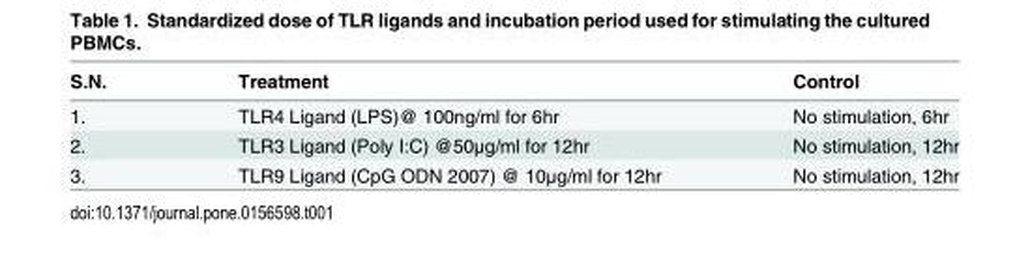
<table><thead><tr><td>S.N.</td><td>Treatment</td><td>Control</td></tr></thead><tbody><tr><td>1.</td><td>TLR4 Ligand (LPS)@ 100ng/ml for 6hr</td><td>No stimulation, 6hr</td></tr><tr><td>2.</td><td>TLR3 Ligand (Poly I:C) @50μg/ml for 12hr</td><td>No stimulation, 12hr</td></tr><tr><td>3.</td><td>TLR9 Ligand (CpG ODN 2007) @ 10μg/ml for 12hr</td><td>No stimulation, 12hr</td></tr></tbody></table>